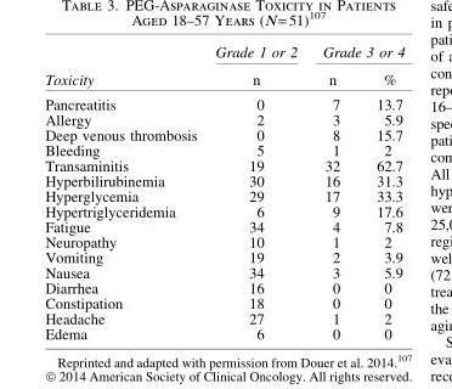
<table><thead><tr><td rowspan="2">Toxicity</td><td rowspan="2">Grade 1 or 2 n</td><td colspan="2">Grade 3 or 4</td></tr><tr><td>n</td><td>%</td></tr></thead><tbody><tr><td>Pancreatitis</td><td>0</td><td>7</td><td>13.7</td></tr><tr><td>Allergy</td><td>2</td><td>3</td><td>5.9</td></tr><tr><td>Deep venous thrombosis</td><td>0</td><td>8</td><td>15.7</td></tr><tr><td>Bleeding</td><td>5</td><td>1</td><td>2</td></tr><tr><td>Transaminitis</td><td>19</td><td>32</td><td>62.7</td></tr><tr><td>Hyperbilirubinemia</td><td>30</td><td>16</td><td>31.3</td></tr><tr><td>Hyperglycemia</td><td>29</td><td>17</td><td>33.3</td></tr><tr><td>Hypertriglyceridemia</td><td>6</td><td>9</td><td>17.6</td></tr><tr><td>Fatigue</td><td>34</td><td>4</td><td>7.8</td></tr><tr><td>Neuropathy</td><td>10</td><td>1</td><td>2</td></tr><tr><td>Vomiting</td><td>19</td><td>2</td><td>3.9</td></tr><tr><td>Nausea</td><td>34</td><td>3</td><td>5.9</td></tr><tr><td>Diarrhea</td><td>16</td><td>0</td><td>0</td></tr><tr><td>Constipation</td><td>18</td><td>0</td><td>0</td></tr><tr><td>Headache</td><td>27</td><td>1</td><td>2</td></tr><tr><td>Edema</td><td>6</td><td>0</td><td>0</td></tr></tbody></table>